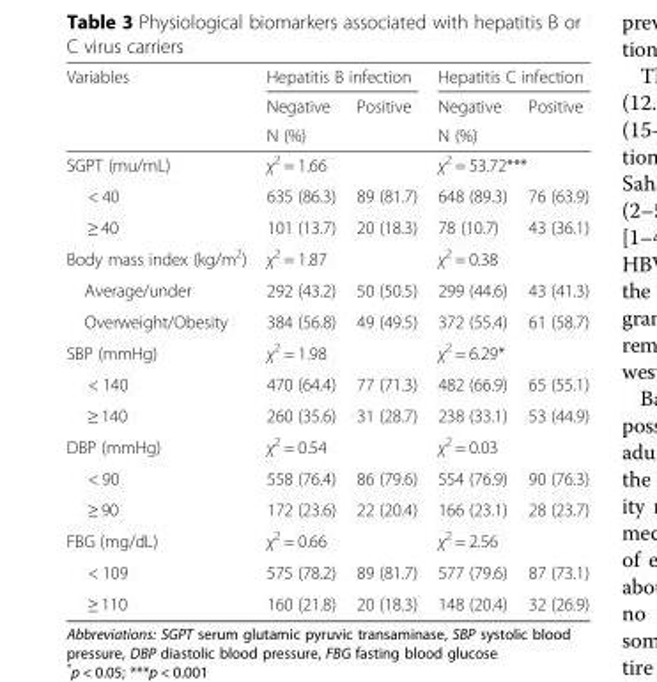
<table><thead><tr><td rowspan="3">Variables</td><td colspan="2">Hepatitis B infection</td><td colspan="2">Hepatitis C infection</td></tr><tr><td>Negative</td><td>Positive</td><td>Negative</td><td>Positive</td></tr><tr><td colspan="2">N (%)</td><td colspan="2">N (%)</td></tr></thead><tbody><tr><td>SGPT (mu/mL)</td><td colspan="2">χ<sup>2</sup> = 1.66</td><td colspan="2">χ<sup>2</sup> = 53.72***</td></tr><tr><td>&lt; 40</td><td>635 (86.3)</td><td>89 (81.7)</td><td>648 (89.3)</td><td>76 (63.9)</td></tr><tr><td>≥ 40</td><td>101 (13.7)</td><td>20 (18.3)</td><td>78 (10.7)</td><td>43 (36.1)</td></tr><tr><td>Body mass index (kg/m<sup>2</sup>)</td><td colspan="2">χ<sup>2</sup> = 1.87</td><td colspan="2">χ<sup>2</sup> = 0.38</td></tr><tr><td>Average/under</td><td>292 (43.2)</td><td>50 (50.5)</td><td>299 (44.6)</td><td>43 (41.3)</td></tr><tr><td>Overweight/Obesity</td><td>384 (56.8)</td><td>49 (49.5)</td><td>372 (55.4)</td><td>61 (58.7)</td></tr><tr><td>SBP (mmHg)</td><td colspan="2">χ<sup>2</sup> = 1.98</td><td colspan="2">χ<sup>2</sup> = 6.29*</td></tr><tr><td>&lt; 140</td><td>470 (64.4)</td><td>77 (71.3)</td><td>482 (66.9)</td><td>65 (55.1)</td></tr><tr><td>≥ 140</td><td>260 (35.6)</td><td>31 (28.7)</td><td>238 (33.1)</td><td>53 (44.9)</td></tr><tr><td>DBP (mmHg)</td><td colspan="2">χ<sup>2</sup> = 0.54</td><td colspan="2">χ<sup>2</sup> = 0.03</td></tr><tr><td>&lt; 90</td><td>558 (76.4)</td><td>86 (79.6)</td><td>554 (76.9)</td><td>90 (76.3)</td></tr><tr><td>≥ 90</td><td>172 (23.6)</td><td>22 (20.4)</td><td>166 (23.1)</td><td>28 (23.7)</td></tr><tr><td>FBG (mg/dL)</td><td colspan="2">χ<sup>2</sup> = 0.66</td><td colspan="2">χ<sup>2</sup> = 2.56</td></tr><tr><td>&lt; 109</td><td>575 (78.2)</td><td>89 (81.7)</td><td>577 (79.6)</td><td>87 (73.1)</td></tr><tr><td>≥ 110</td><td>160 (21.8)</td><td>20 (18.3)</td><td>148 (20.4)</td><td>32 (26.9)</td></tr></tbody></table>